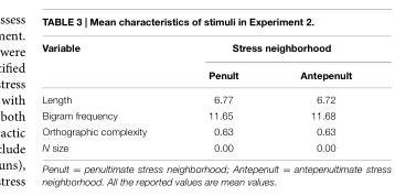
<table><thead><tr><td rowspan="2">Variable</td><td colspan="2">Stress neighborhood</td></tr><tr><td>Penult</td><td>Antepenult</td></tr></thead><tbody><tr><td>Length</td><td>6.77</td><td>6.72</td></tr><tr><td>Bigram frequency</td><td>11.65</td><td>11.68</td></tr><tr><td>Orthographic complexity</td><td>0.63</td><td>0.63</td></tr><tr><td>N size</td><td>0.00</td><td>0.00</td></tr></tbody></table>